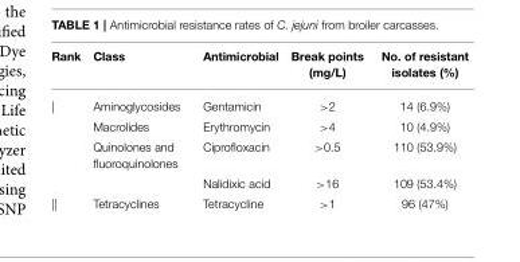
<table><thead><tr><td>Rank</td><td>Class</td><td>Antimicrobial</td><td>Break points (mg/L)</td><td>No. of resistant isolates (%)</td></tr></thead><tbody><tr><td rowspan="4">|</td><td>Aminoglycosides</td><td>Gentamicin</td><td>&gt;2</td><td>14 (6.9%)</td></tr><tr><td>Macrolides</td><td>Erythromycin</td><td>&gt;4</td><td>10 (4.9%)</td></tr><tr><td>Quinolones and fluoroquinolones</td><td>Ciprofloxacin</td><td>&gt;0.5</td><td>110 (53.9%)</td></tr><tr><td></td><td>Nalidixic acid</td><td>&gt;16</td><td>109 (53.4%)</td></tr><tr><td>||</td><td>Tetracyclines</td><td>Tetracycline</td><td>&gt;1</td><td>96 (47%)</td></tr></tbody></table>